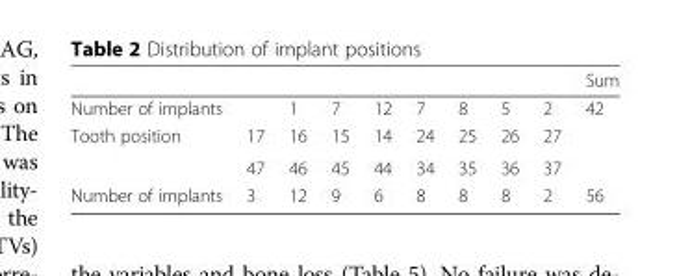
<table><thead><tr><td></td><td></td><td></td><td></td><td></td><td></td><td></td><td></td><td></td><td>Sum</td></tr></thead><tbody><tr><td colspan="2">Number of implants</td><td>1</td><td>7</td><td>12</td><td>7</td><td>8</td><td>5</td><td>2</td><td>42</td></tr><tr><td rowspan="2">Tooth position</td><td>17</td><td>16</td><td>15</td><td>14</td><td>24</td><td>25</td><td>26</td><td>27</td><td></td></tr><tr><td>47</td><td>46</td><td>45</td><td>44</td><td>34</td><td>35</td><td>36</td><td>37</td><td></td></tr><tr><td>Number of implants</td><td>3</td><td>12</td><td>9</td><td>6</td><td>8</td><td>8</td><td>8</td><td>2</td><td>56</td></tr></tbody></table>